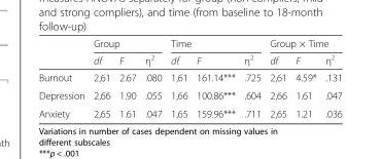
<table><thead><tr><td rowspan="2"></td><td colspan="3">Group</td><td colspan="3">Time</td><td colspan="3">Group × Time</td></tr><tr><td>df</td><td>F</td><td>η<sup>2</sup></td><td>df</td><td>F</td><td>η<sup>2</sup></td><td>df</td><td>F</td><td>η<sup>2</sup></td></tr></thead><tbody><tr><td>Burnout</td><td>2,61</td><td>2.67</td><td>.080</td><td>1,61</td><td>161.14***</td><td>.725</td><td>2,61</td><td>4.59*</td><td>.131</td></tr><tr><td>Depression</td><td>2,66</td><td>1.90</td><td>.055</td><td>1,66</td><td>100.86***</td><td>.604</td><td>2,66</td><td>1.61</td><td>.047</td></tr><tr><td>Anxiety</td><td>2,65</td><td>1.61</td><td>.047</td><td>1,65</td><td>159.96***</td><td>.711</td><td>2,65</td><td>1.21</td><td>.036</td></tr></tbody></table>